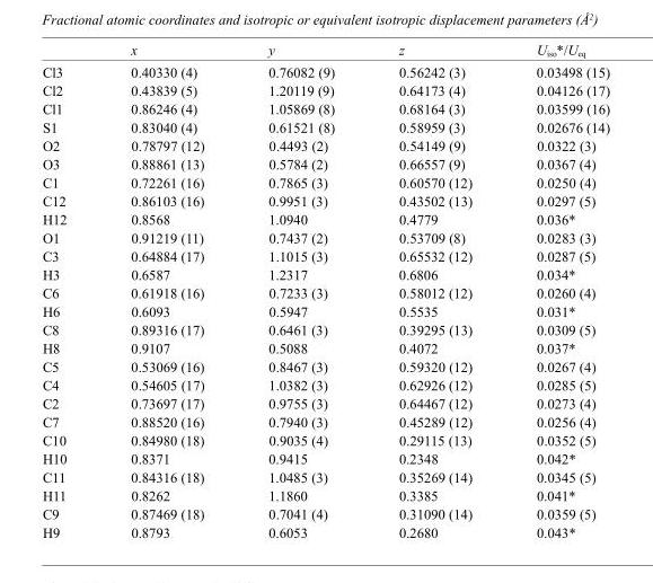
<table><thead><tr><td></td><td>x</td><td>y</td><td>z</td><td>U<sub>iso</sub>*/U<sub>eq</sub></td></tr></thead><tbody><tr><td>Cl3</td><td>0.40330 (4)</td><td>0.76082 (9)</td><td>0.56242 (3)</td><td>0.03498 (15)</td></tr><tr><td>Cl2</td><td>0.43839 (5)</td><td>1.20119 (9)</td><td>0.64173 (4)</td><td>0.04126 (17)</td></tr><tr><td>Cl1</td><td>0.86246 (4)</td><td>1.05869 (8)</td><td>0.68164 (3)</td><td>0.03599 (16)</td></tr><tr><td>S1</td><td>0.83040 (4)</td><td>0.61521 (8)</td><td>0.58959 (3)</td><td>0.02676 (14)</td></tr><tr><td>O2</td><td>0.78797 (12)</td><td>0.4493 (2)</td><td>0.54149 (9)</td><td>0.0322 (3)</td></tr><tr><td>O3</td><td>0.88861 (13)</td><td>0.5784 (2)</td><td>0.66557 (9)</td><td>0.0367 (4)</td></tr><tr><td>C1</td><td>0.72261 (16)</td><td>0.7865 (3)</td><td>0.60570 (12)</td><td>0.0250 (4)</td></tr><tr><td>C12</td><td>0.86103 (16)</td><td>0.9951 (3)</td><td>0.43502 (13)</td><td>0.0297 (5)</td></tr><tr><td>H12</td><td>0.8568</td><td>1.0940</td><td>0.4779</td><td>0.036*</td></tr><tr><td>O1</td><td>0.91219 (11)</td><td>0.7437 (2)</td><td>0.53709 (8)</td><td>0.0283 (3)</td></tr><tr><td>C3</td><td>0.64884 (17)</td><td>1.1015 (3)</td><td>0.65532 (12)</td><td>0.0287 (5)</td></tr><tr><td>H3</td><td>0.6587</td><td>1.2317</td><td>0.6806</td><td>0.034*</td></tr><tr><td>C6</td><td>0.61918 (16)</td><td>0.7233 (3)</td><td>0.58012 (12)</td><td>0.0260 (4)</td></tr><tr><td>H6</td><td>0.6093</td><td>0.5947</td><td>0.5535</td><td>0.031*</td></tr><tr><td>C8</td><td>0.89316 (17)</td><td>0.6461 (3)</td><td>0.39295 (13)</td><td>0.0309 (5)</td></tr><tr><td>H8</td><td>0.9107</td><td>0.5088</td><td>0.4072</td><td>0.037*</td></tr><tr><td>C5</td><td>0.53069 (16)</td><td>0.8467 (3)</td><td>0.59320 (12)</td><td>0.0267 (4)</td></tr><tr><td>C4</td><td>0.54605 (17)</td><td>1.0382 (3)</td><td>0.62926 (12)</td><td>0.0285 (5)</td></tr><tr><td>C2</td><td>0.73697 (17)</td><td>0.9755 (3)</td><td>0.64467 (12)</td><td>0.0273 (4)</td></tr><tr><td>C7</td><td>0.88520 (16)</td><td>0.7940 (3)</td><td>0.45289 (12)</td><td>0.0256 (4)</td></tr><tr><td>C10</td><td>0.84980 (18)</td><td>0.9035 (4)</td><td>0.29115 (13)</td><td>0.0352 (5)</td></tr><tr><td>H10</td><td>0.8371</td><td>0.9415</td><td>0.2348</td><td>0.042*</td></tr><tr><td>C11</td><td>0.84316 (18)</td><td>1.0485 (3)</td><td>0.35269 (14)</td><td>0.0345 (5)</td></tr><tr><td>H11</td><td>0.8262</td><td>1.1860</td><td>0.3385</td><td>0.041*</td></tr><tr><td>C9</td><td>0.87469 (18)</td><td>0.7041 (4)</td><td>0.31090 (14)</td><td>0.0359 (5)</td></tr><tr><td>H9</td><td>0.8793</td><td>0.6053</td><td>0.2680</td><td>0.043*</td></tr></tbody></table>